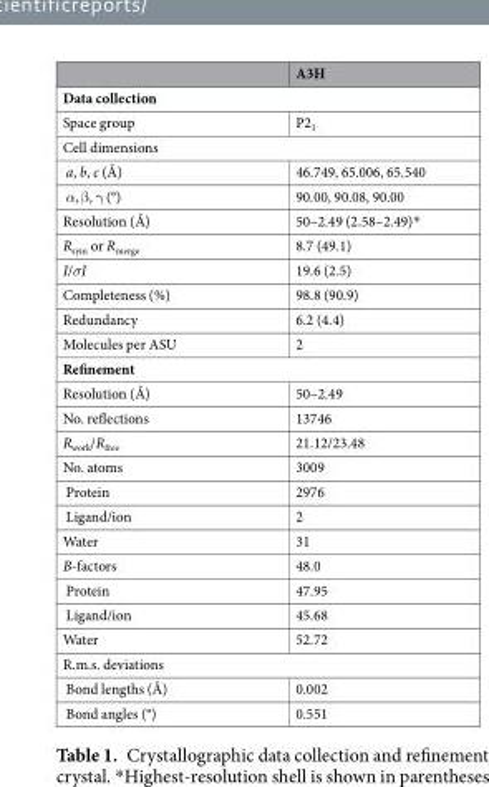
<table><thead><tr><td></td><td>A3H</td></tr></thead><tbody><tr><td colspan="2">Data collection</td></tr><tr><td>Space group</td><td>P2<sub>1</sub></td></tr><tr><td colspan="2">Cell dimensions</td></tr><tr><td>a, b, c (Å)</td><td>46.749, 65.006, 65.540</td></tr><tr><td>α, β, γ (°)</td><td>90.00, 90.08, 90.00</td></tr><tr><td>Resolution (Å)</td><td>50–2.49 (2.58–2.49)*</td></tr><tr><td>R<sub>sym</sub> or R<sub>merge</sub></td><td>8.7 (49.1)</td></tr><tr><td>I/σI</td><td>19.6 (2.5)</td></tr><tr><td>Completeness (%)</td><td>98.8 (90.9)</td></tr><tr><td>Redundancy</td><td>6.2 (4.4)</td></tr><tr><td>Molecules per ASU</td><td>2</td></tr><tr><td colspan="2">Refinement</td></tr><tr><td>Resolution (Å)</td><td>50–2.49</td></tr><tr><td>No. reflections</td><td>13746</td></tr><tr><td>R<sub>work</sub>/R<sub>free</sub></td><td>21.12/23.48</td></tr><tr><td>No. atoms</td><td>3009</td></tr><tr><td>Protein</td><td>2976</td></tr><tr><td>Ligand/ion</td><td>2</td></tr><tr><td>Water</td><td>31</td></tr><tr><td>B-factors</td><td>48.0</td></tr><tr><td>Protein</td><td>47.95</td></tr><tr><td>Ligand/ion</td><td>45.68</td></tr><tr><td>Water</td><td>52.72</td></tr><tr><td colspan="2">R.m.s. deviations</td></tr><tr><td>Bond lengths (Å)</td><td>0.002</td></tr><tr><td>Bond angles (°)</td><td>0.551</td></tr></tbody></table>